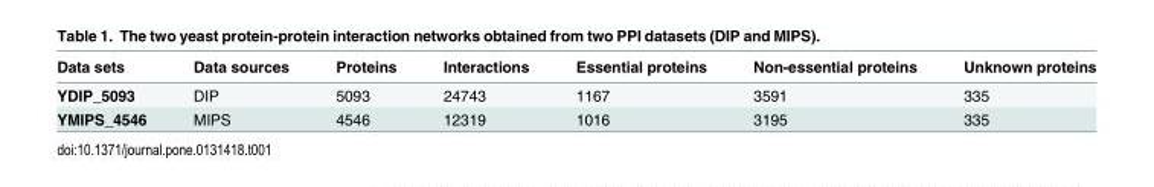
<table><thead><tr><td>Data sets</td><td>Data sources</td><td>Proteins</td><td>Interactions</td><td>Essential proteins</td><td>Non-essential proteins</td><td>Unknown proteins</td></tr></thead><tbody><tr><td>YDIP_5093</td><td>DIP</td><td>5093</td><td>24743</td><td>1167</td><td>3591</td><td>335</td></tr><tr><td>YMIPS_4546</td><td>MIPS</td><td>4546</td><td>12319</td><td>1016</td><td>3195</td><td>335</td></tr></tbody></table>